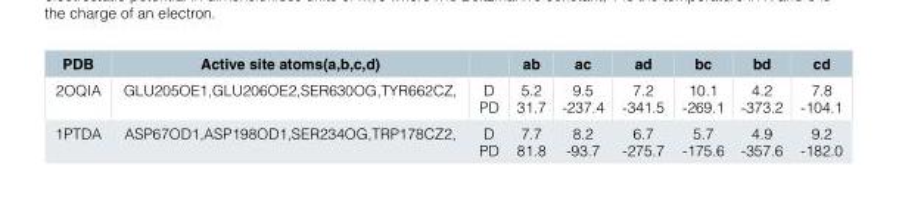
<table><thead><tr><td>PDB</td><td>Active site atoms(a,b,c,d)</td><td></td><td>ab</td><td>ac</td><td>ad</td><td>bc</td><td>bd</td><td>cd</td></tr></thead><tbody><tr><td>2OQIA</td><td>GLU205OE1,GLU206OE2,SER630OG,TYR662CZ,</td><td>D PD</td><td>5.2 31.7</td><td>9.5 -237.4</td><td>7.2 -341.5</td><td>10.1 -269.1</td><td>4.2 -373.2</td><td>7.8 -104.1</td></tr><tr><td>1PTDA</td><td>ASP67OD1,ASP198OD1,SER234OG,TRP178CZ2,</td><td>D PD</td><td>7.7 81.8</td><td>8.2 -93.7</td><td>6.7 -275.7</td><td>5.7 -175.6</td><td>4.9 -357.6</td><td>9.2 -182.0</td></tr></tbody></table>